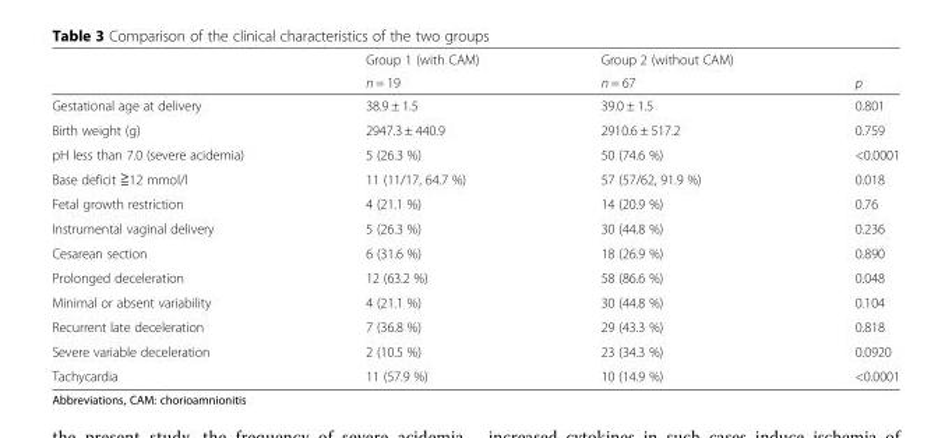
<table><thead><tr><td rowspan="2"></td><td rowspan="2">Group 1 (with CAM) n = 19</td><td rowspan="2">Group 2 (without CAM) n = 67</td><td rowspan="2">p</td></tr><tr></tr></thead><tbody><tr><td>Gestational age at delivery</td><td>38.9 ± 1.5</td><td>39.0 ± 1.5</td><td>0.801</td></tr><tr><td>Birth weight (g)</td><td>2947.3 ± 440.9</td><td>2910.6 ± 517.2</td><td>0.759</td></tr><tr><td>pH less than 7.0 (severe acidemia)</td><td>5 (26.3 %)</td><td>50 (74.6 %)</td><td>&lt;0.0001</td></tr><tr><td>Base deficit ≧12 mmol/l</td><td>11 (11/17, 64.7 %)</td><td>57 (57/62, 91.9 %)</td><td>0.018</td></tr><tr><td>Fetal growth restriction</td><td>4 (21.1 %)</td><td>14 (20.9 %)</td><td>0.76</td></tr><tr><td>Instrumental vaginal delivery</td><td>5 (26.3 %)</td><td>30 (44.8 %)</td><td>0.236</td></tr><tr><td>Cesarean section</td><td>6 (31.6 %)</td><td>18 (26.9 %)</td><td>0.890</td></tr><tr><td>Prolonged deceleration</td><td>12 (63.2 %)</td><td>58 (86.6 %)</td><td>0.048</td></tr><tr><td>Minimal or absent variability</td><td>4 (21.1 %)</td><td>30 (44.8 %)</td><td>0.104</td></tr><tr><td>Recurrent late deceleration</td><td>7 (36.8 %)</td><td>29 (43.3 %)</td><td>0.818</td></tr><tr><td>Severe variable deceleration</td><td>2 (10.5 %)</td><td>23 (34.3 %)</td><td>0.0920</td></tr><tr><td>Tachycardia</td><td>11 (57.9 %)</td><td>10 (14.9 %)</td><td>&lt;0.0001</td></tr></tbody></table>